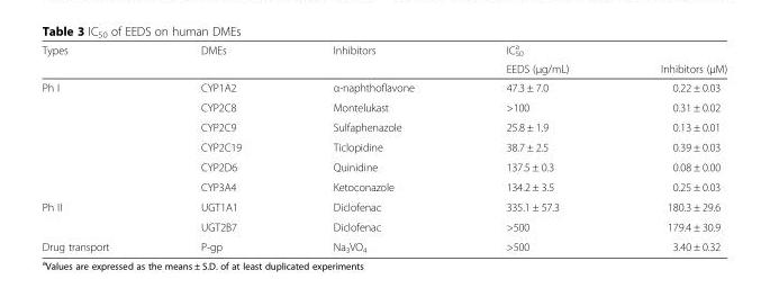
<table><thead><tr><td rowspan="2">Types</td><td rowspan="2">DMEs</td><td rowspan="2">Inhibitors</td><td rowspan="2">IC<sub>50</sub> <sup>a</sup> EEDS (μg/mL)</td><td rowspan="2">Inhibitors (μM)</td></tr><tr></tr></thead><tbody><tr><td rowspan="6">Ph I</td><td>CYP1A2</td><td>α-naphthoflavone</td><td>47.3 ± 7.0</td><td>0.22 ± 0.03</td></tr><tr><td>CYP2C8</td><td>Montelukast</td><td>&gt;100</td><td>0.31 ± 0.02</td></tr><tr><td>CYP2C9</td><td>Sulfaphenazole</td><td>25.8 ± 1.9</td><td>0.13 ± 0.01</td></tr><tr><td>CYP2C19</td><td>Ticlopidine</td><td>38.7 ± 2.5</td><td>0.39 ± 0.03</td></tr><tr><td>CYP2D6</td><td>Quinidine</td><td>137.5 ± 0.3</td><td>0.08 ± 0.00</td></tr><tr><td>CYP3A4</td><td>Ketoconazole</td><td>134.2 ± 3.5</td><td>0.25 ± 0.03</td></tr><tr><td rowspan="2">Ph II</td><td>UGT1A1</td><td>Diclofenac</td><td>335.1 ± 57.3</td><td>180.3 ± 29.6</td></tr><tr><td>UGT2B7</td><td>Diclofenac</td><td>&gt;500</td><td>179.4 ± 30.9</td></tr><tr><td>Drug transport</td><td>P-gp</td><td>Na<sub>3</sub>VO<sub>4</sub></td><td>&gt;500</td><td>3.40 ± 0.32</td></tr></tbody></table>